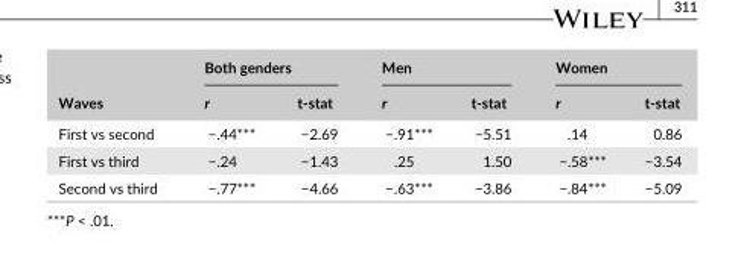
<table><thead><tr><td rowspan="2">Waves</td><td colspan="2">Both genders</td><td colspan="2">Men</td><td colspan="2">Women</td></tr><tr><td>r</td><td>t- stat</td><td>r</td><td>t- stat</td><td>r</td><td>t- stat</td></tr></thead><tbody><tr><td>First vs second</td><td>−.44***</td><td>−2.69</td><td>−.91***</td><td>−5.51</td><td>.14</td><td>0.86</td></tr><tr><td>First vs third</td><td>−.24</td><td>−1.43</td><td>.25</td><td>1.50</td><td>−.58***</td><td>−3.54</td></tr><tr><td>Second vs third</td><td>−.77***</td><td>−4.66</td><td>−.63***</td><td>−3.86</td><td>−.84***</td><td>−5.09</td></tr></tbody></table>